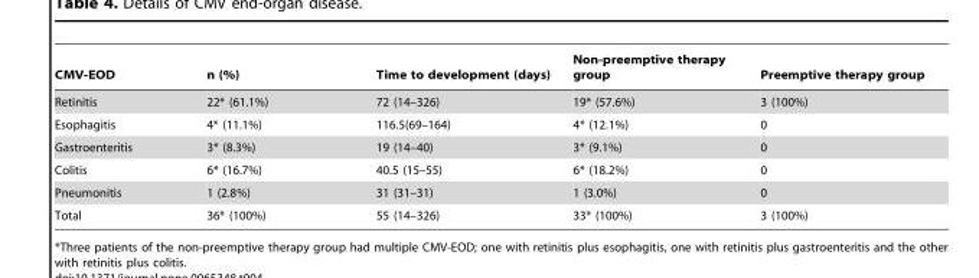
<table><thead><tr><td>CMV-EOD</td><td>n (%)</td><td>Time to development (days)</td><td>Non-preemptive therapy group</td><td>Preemptive therapy group</td></tr></thead><tbody><tr><td>Retinitis</td><td>22* (61.1%)</td><td>72 (14–326)</td><td>19* (57.6%)</td><td>3 (100%)</td></tr><tr><td>Esophagitis</td><td>4* (11.1%)</td><td>116.5(69–164)</td><td>4* (12.1%)</td><td>0</td></tr><tr><td>Gastroenteritis</td><td>3* (8.3%)</td><td>19 (14–40)</td><td>3* (9.1%)</td><td>0</td></tr><tr><td>Colitis</td><td>6* (16.7%)</td><td>40.5 (15–55)</td><td>6* (18.2%)</td><td>0</td></tr><tr><td>Pneumonitis</td><td>1 (2.8%)</td><td>31 (31–31)</td><td>1 (3.0%)</td><td>0</td></tr><tr><td>Total</td><td>36* (100%)</td><td>55 (14–326)</td><td>33* (100%)</td><td>3 (100%)</td></tr></tbody></table>